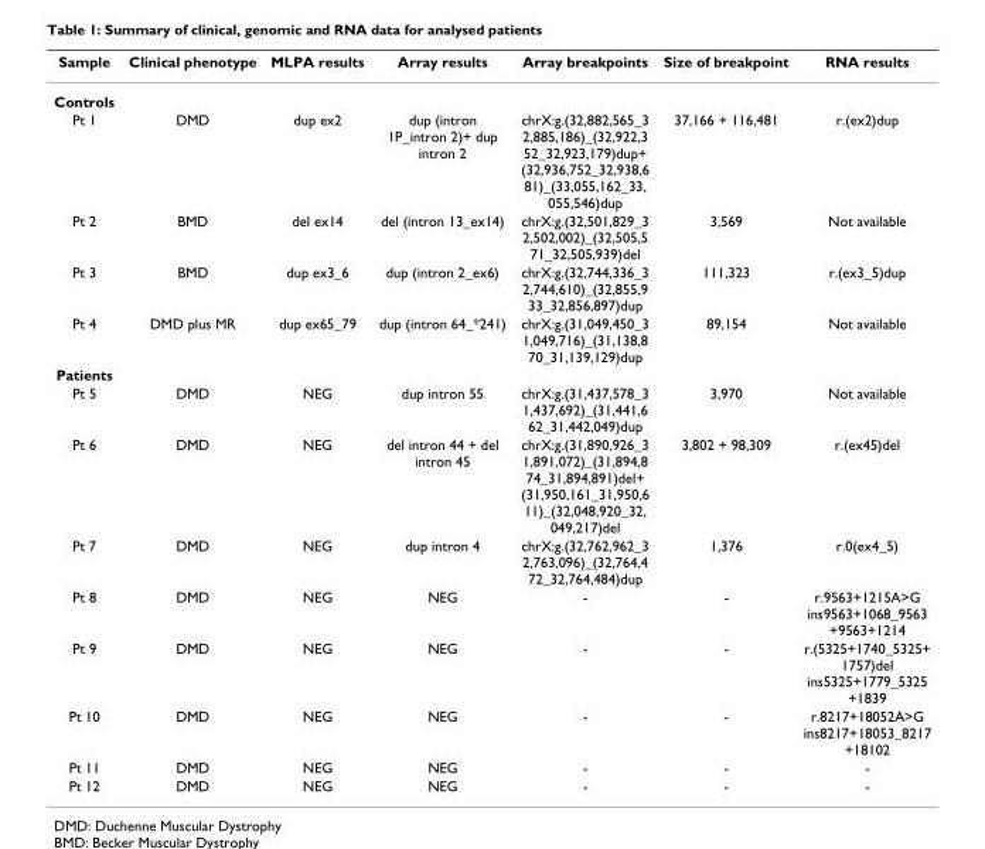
<table><thead><tr><td>Sample</td><td>Clinical phenotype</td><td>MLPA results</td><td>Array results</td><td>Array breakpoints</td><td>Size of breakpoint</td><td>RNA results</td></tr></thead><tbody><tr><td colspan="7">Controls</td></tr><tr><td>Pt 1</td><td>DMD</td><td>dup ex2</td><td>dup (intron 1P_intron 2)+ dup intron 2</td><td>chrX:g.(32,882,565_3 2,885,186)_(32,922,3 52_32,923,179)dup+ (32,936,752_32,938,6 81)_(33,055,162_33, 055,546)dup</td><td>37,166 + 116,481</td><td>r.(ex2)dup</td></tr><tr><td>Pt 2</td><td>BMD</td><td>del ex14</td><td>del (intron 13_ex14)</td><td>chrX:g.(32,501,829_3 2,502,002)_(32,505,5 71_32,505,939)del</td><td>3,569</td><td>Not available</td></tr><tr><td>Pt 3</td><td>BMD</td><td>dup ex3_6</td><td>dup (intron 2_ex6)</td><td>chrX:g.(32,744,336_3 2,744,610)_(32,855,9 33_32,856,897)dup</td><td>111,323</td><td>r.(ex3_5)dup</td></tr><tr><td>Pt 4</td><td>DMD plus MR</td><td>dup ex65_79</td><td>dup (intron 64_*241)</td><td>chrX:g.(31,049,450_3 1,049,716)_(31,138,8 70_31,139,129)dup</td><td>89,154</td><td>Not available</td></tr><tr><td colspan="7">Patients</td></tr><tr><td>Pt 5</td><td>DMD</td><td>NEG</td><td>dup intron 55</td><td>chrX:g.(31,437,578_3 1,437,692)_(31,441,6 62_31,442,049)dup</td><td>3,970</td><td>Not available</td></tr><tr><td>Pt 6</td><td>DMD</td><td>NEG</td><td>del intron 44 + del intron 45</td><td>chrX:g.(31,890,926_3 1,891,072)_(31,894,8 74_31,894,891)del+ (31,950,161_31,950,6 11)_(32,048,920_32, 049,217)del</td><td>3,802 + 98,309</td><td>r.(ex45)del</td></tr><tr><td>Pt 7</td><td>DMD</td><td>NEG</td><td>dup intron 4</td><td>chrX:g.(32,762,962_3 2,763,096)_(32,764,4 72_32,764,484)dup</td><td>1,376</td><td>r.0(ex4_5)</td></tr><tr><td>Pt 8</td><td>DMD</td><td>NEG</td><td>NEG</td><td>-</td><td>-</td><td>r.9563+1215A&gt;G ins9563+1068_9563 +9563+1214</td></tr><tr><td>Pt 9</td><td>DMD</td><td>NEG</td><td>NEG</td><td>-</td><td>-</td><td>r.(5325+1740_5325+ 1757)del ins5325+1779_5325 +1839</td></tr><tr><td>Pt 10</td><td>DMD</td><td>NEG</td><td>NEG</td><td>-</td><td>-</td><td>r.8217+18052A&gt;G ins8217+18053_8217 +18102</td></tr><tr><td>Pt 11</td><td>DMD</td><td>NEG</td><td>NEG</td><td>-</td><td>-</td><td>-</td></tr><tr><td>Pt 12</td><td>DMD</td><td>NEG</td><td>NEG</td><td>-</td><td>-</td><td>-</td></tr></tbody></table>